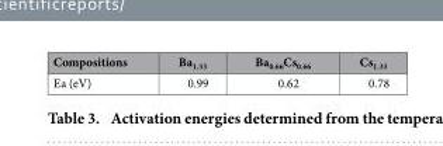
<table><thead><tr><td>Compositions</td><td>Ba<sub>1.33</sub></td><td>Ba<sub>0.66</sub>Cs<sub>0.66</sub></td><td>Cs<sub>1.33</sub></td></tr></thead><tbody><tr><td>Ea (eV)</td><td>0.99</td><td>0.62</td><td>0.78</td></tr></tbody></table>